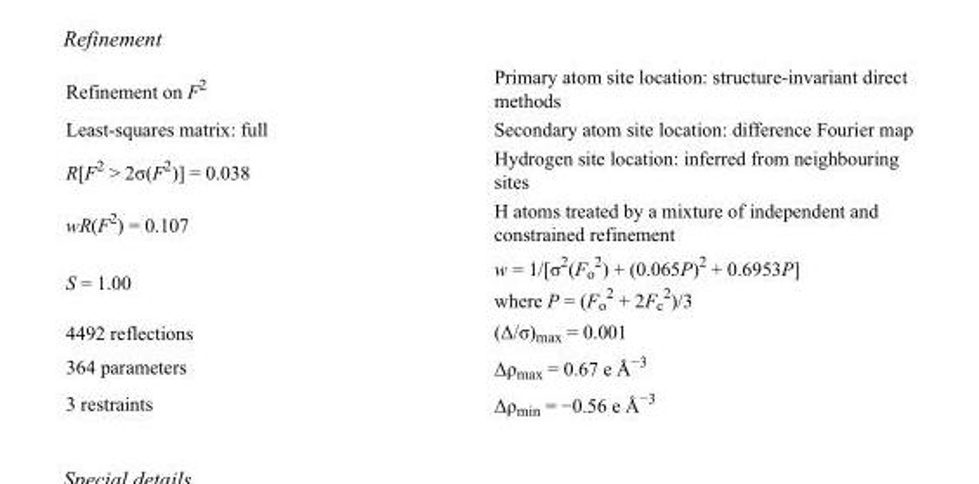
<table><tbody><tr><td>Refinement on F<sup>2</sup></td><td>Primary atom site location: structure-invariant direct methods</td></tr><tr><td>Least-squares matrix: full</td><td>Secondary atom site location: difference Fourier map</td></tr><tr><td>R[F<sup>2</sup> &gt; 2σ(F<sup>2</sup>)] = 0.038</td><td>Hydrogen site location: inferred from neighbouring sites</td></tr><tr><td>wR(F<sup>2</sup>) = 0.107</td><td>H atoms treated by a mixture of independent and constrained refinement</td></tr><tr><td>S = 1.00</td><td>w = 1/[σ<sup>2</sup>(F<sub>o</sub> <sup>2</sup>) + (0.065P)<sup>2</sup> + 0.6953P] where P = (F<sub>o</sub> <sup>2</sup> + 2F<sub>c</sub> <sup>2</sup>)/3</td></tr><tr><td>4492 reflections</td><td>(Δ/σ)<sub>max</sub> = 0.001</td></tr><tr><td>364 parameters</td><td>Δρ<sub>max</sub> = 0.67 e Å<sup>−3</sup></td></tr><tr><td>3 restraints</td><td>Δρ<sub>min</sub> = −0.56 e Å<sup>−3</sup></td></tr></tbody></table>